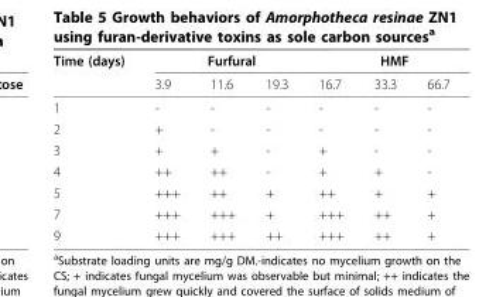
<table><thead><tr><td rowspan="2">Time (days)</td><td colspan="3">Furfural</td><td colspan="3">HMF</td></tr><tr><td>3.9</td><td>11.6</td><td>19.3</td><td>16.7</td><td>33.3</td><td>66.7</td></tr></thead><tbody><tr><td>1</td><td>-</td><td>-</td><td>-</td><td>-</td><td>-</td><td>-</td></tr><tr><td>2</td><td>+</td><td>-</td><td>-</td><td>-</td><td>-</td><td>-</td></tr><tr><td>3</td><td>+</td><td>+</td><td>-</td><td>+</td><td>-</td><td>-</td></tr><tr><td>4</td><td>++</td><td>++</td><td>-</td><td>+</td><td>+</td><td>-</td></tr><tr><td>5</td><td>+++</td><td>++</td><td>+</td><td>++</td><td>+</td><td>+</td></tr><tr><td>7</td><td>+++</td><td>+++</td><td>+</td><td>+++</td><td>++</td><td>+</td></tr><tr><td>9</td><td>+++</td><td>+++</td><td>++</td><td>+++</td><td>++</td><td>+</td></tr></tbody></table>